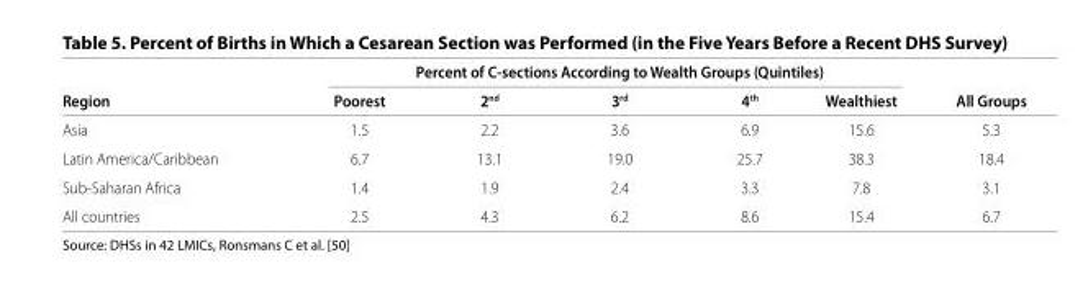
<table><thead><tr><td rowspan="2">Region</td><td colspan="5">Percent of C-sections According to Wealth Groups (Quintiles)</td><td rowspan="2">All Groups</td></tr><tr><td>Poorest</td><td>2<sup>nd</sup></td><td>3<sup>rd</sup></td><td>4<sup>th</sup></td><td>Wealthiest</td></tr></thead><tbody><tr><td>Asia</td><td>1.5</td><td>2.2</td><td>3.6</td><td>6.9</td><td>15.6</td><td>5.3</td></tr><tr><td>Latin America/Caribbean</td><td>6.7</td><td>13.1</td><td>19.0</td><td>25.7</td><td>38.3</td><td>18.4</td></tr><tr><td>Sub-Saharan Africa</td><td>1.4</td><td>1.9</td><td>2.4</td><td>3.3</td><td>7.8</td><td>3.1</td></tr><tr><td>All countries</td><td>2.5</td><td>4.3</td><td>6.2</td><td>8.6</td><td>15.4</td><td>6.7</td></tr></tbody></table>